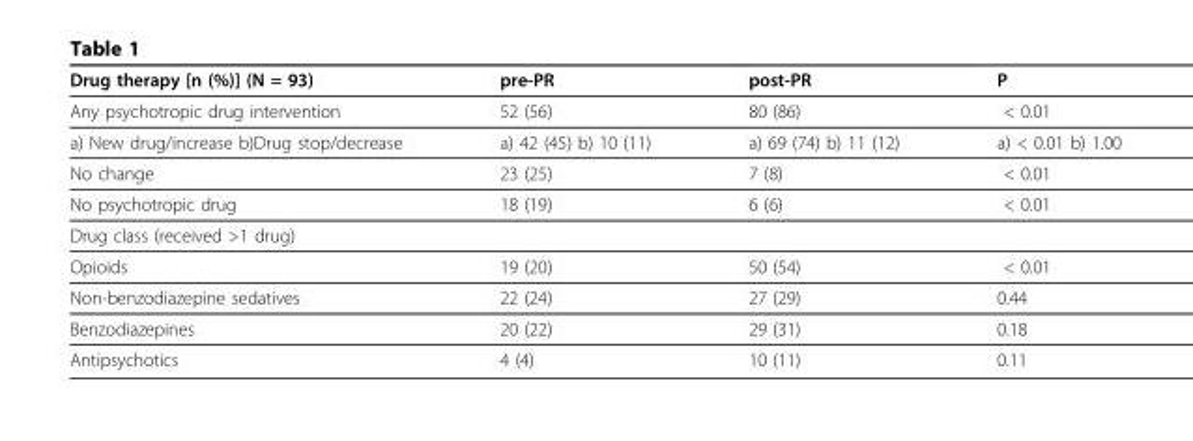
<table><thead><tr><td>Drug therapy [n (%)] (N = 93)</td><td>pre-PR</td><td>post-PR</td><td>P</td></tr></thead><tbody><tr><td>Any psychotropic drug intervention</td><td>52 (56)</td><td>80 (86)</td><td>&lt; 0.01</td></tr><tr><td>a) New drug/increase b)Drug stop/decrease</td><td>a) 42 (45) b) 10 (11)</td><td>a) 69 (74) b) 11 (12)</td><td>a) &lt; 0.01 b) 1.00</td></tr><tr><td>No change</td><td>23 (25)</td><td>7 (8)</td><td>&lt; 0.01</td></tr><tr><td>No psychotropic drug</td><td>18 (19)</td><td>6 (6)</td><td>&lt; 0.01</td></tr><tr><td colspan="4">Drug class (received &gt;1 drug)</td></tr><tr><td>Opioids</td><td>19 (20)</td><td>50 (54)</td><td>&lt; 0.01</td></tr><tr><td>Non-benzodiazepine sedatives</td><td>22 (24)</td><td>27 (29)</td><td>0.44</td></tr><tr><td>Benzodiazepines</td><td>20 (22)</td><td>29 (31)</td><td>0.18</td></tr><tr><td>Antipsychotics</td><td>4 (4)</td><td>10 (11)</td><td>0.11</td></tr></tbody></table>